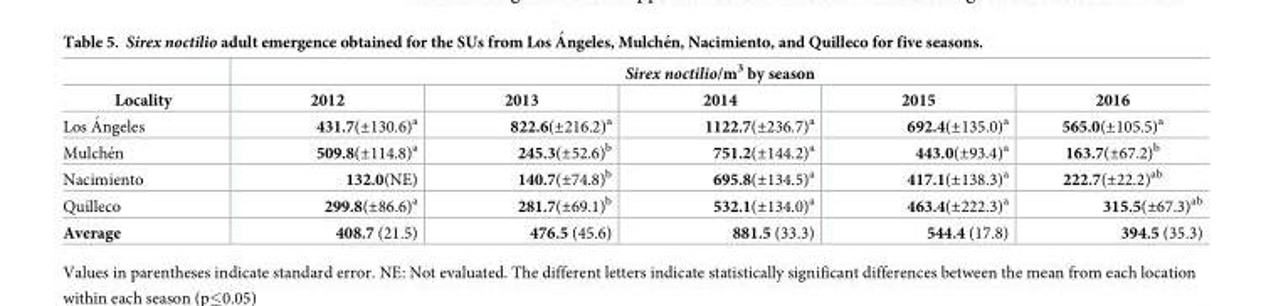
<table><thead><tr><td rowspan="2">Locality</td><td colspan="5">Sirex noctilio/m<sup>3</sup> by season</td></tr><tr><td>2012</td><td>2013</td><td>2014</td><td>2015</td><td>2016</td></tr></thead><tbody><tr><td>Los A´ngeles</td><td>431.7(±130.6)<sup>a</sup></td><td>822.6(±216.2)<sup>a</sup></td><td>1122.7(±236.7)<sup>a</sup></td><td>692.4(±135.0)<sup>a</sup></td><td>565.0(±105.5)<sup>a</sup></td></tr><tr><td>Mulche´n</td><td>509.8(±114.8)<sup>a</sup></td><td>245.3(±52.6)<sup>b</sup></td><td>751.2(±144.2)<sup>a</sup></td><td>443.0(±93.4)<sup>a</sup></td><td>163.7(±67.2)<sup>b</sup></td></tr><tr><td>Nacimiento</td><td>132.0(NE)</td><td>140.7(±74.8)<sup>b</sup></td><td>695.8(±134.5)<sup>a</sup></td><td>417.1(±138.3)<sup>a</sup></td><td>222.7(±22.2)<sup>ab</sup></td></tr><tr><td>Quilleco</td><td>299.8(±86.6)<sup>a</sup></td><td>281.7(±69.1)<sup>b</sup></td><td>532.1(±134.0)<sup>a</sup></td><td>463.4(±222.3)<sup>a</sup></td><td>315.5(±67.3)<sup>ab</sup></td></tr><tr><td>Average</td><td>408.7 (21.5)</td><td>476.5 (45.6)</td><td>881.5 (33.3)</td><td>544.4 (17.8)</td><td>394.5 (35.3)</td></tr></tbody></table>